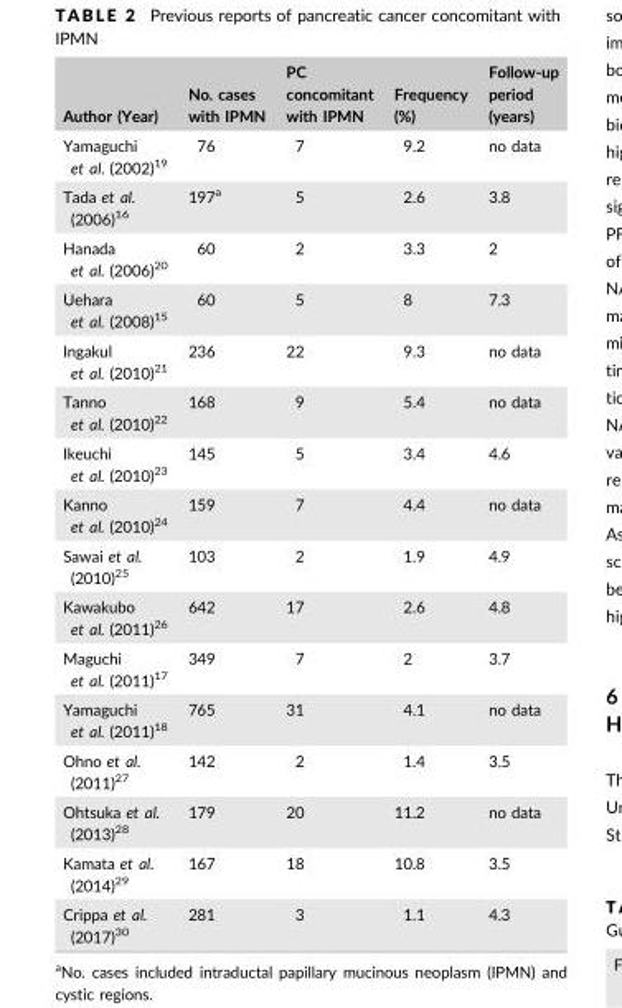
<table><thead><tr><td>Author (Year)</td><td>No. cases with IPMN</td><td>PC concomitant with IPMN</td><td>Frequency (%)</td><td>Follow-up period (years)</td></tr></thead><tbody><tr><td>Yamaguchi et al. (2002)<sup>19</sup></td><td>76</td><td>7</td><td>9.2</td><td>no data</td></tr><tr><td>Tada et al. (2006)<sup>16</sup></td><td>197<sup>a</sup></td><td>5</td><td>2.6</td><td>3.8</td></tr><tr><td>Hanada et al. (2006)<sup>20</sup></td><td>60</td><td>2</td><td>3.3</td><td>2</td></tr><tr><td>Uehara et al. (2008)<sup>15</sup></td><td>60</td><td>5</td><td>8</td><td>7.3</td></tr><tr><td>Ingakul et al. (2010)<sup>21</sup></td><td>236</td><td>22</td><td>9.3</td><td>no data</td></tr><tr><td>Tanno et al. (2010)<sup>22</sup></td><td>168</td><td>9</td><td>5.4</td><td>no data</td></tr><tr><td>Ikeuchi et al. (2010)<sup>23</sup></td><td>145</td><td>5</td><td>3.4</td><td>4.6</td></tr><tr><td>Kanno et al. (2010)<sup>24</sup></td><td>159</td><td>7</td><td>4.4</td><td>no data</td></tr><tr><td>Sawai et al. (2010)<sup>25</sup></td><td>103</td><td>2</td><td>1.9</td><td>4.9</td></tr><tr><td>Kawakubo et al. (2011)<sup>26</sup></td><td>642</td><td>17</td><td>2.6</td><td>4.8</td></tr><tr><td>Maguchi et al. (2011)<sup>17</sup></td><td>349</td><td>7</td><td>2</td><td>3.7</td></tr><tr><td>Yamaguchi et al. (2011)<sup>18</sup></td><td>765</td><td>31</td><td>4.1</td><td>no data</td></tr><tr><td>Ohno et al. (2011)<sup>27</sup></td><td>142</td><td>2</td><td>1.4</td><td>3.5</td></tr><tr><td>Ohtsuka et al. (2013)<sup>28</sup></td><td>179</td><td>20</td><td>11.2</td><td>no data</td></tr><tr><td>Kamata et al. (2014)<sup>29</sup></td><td>167</td><td>18</td><td>10.8</td><td>3.5</td></tr><tr><td>Crippa et al. (2017)<sup>30</sup></td><td>281</td><td>3</td><td>1.1</td><td>4.3</td></tr></tbody></table>